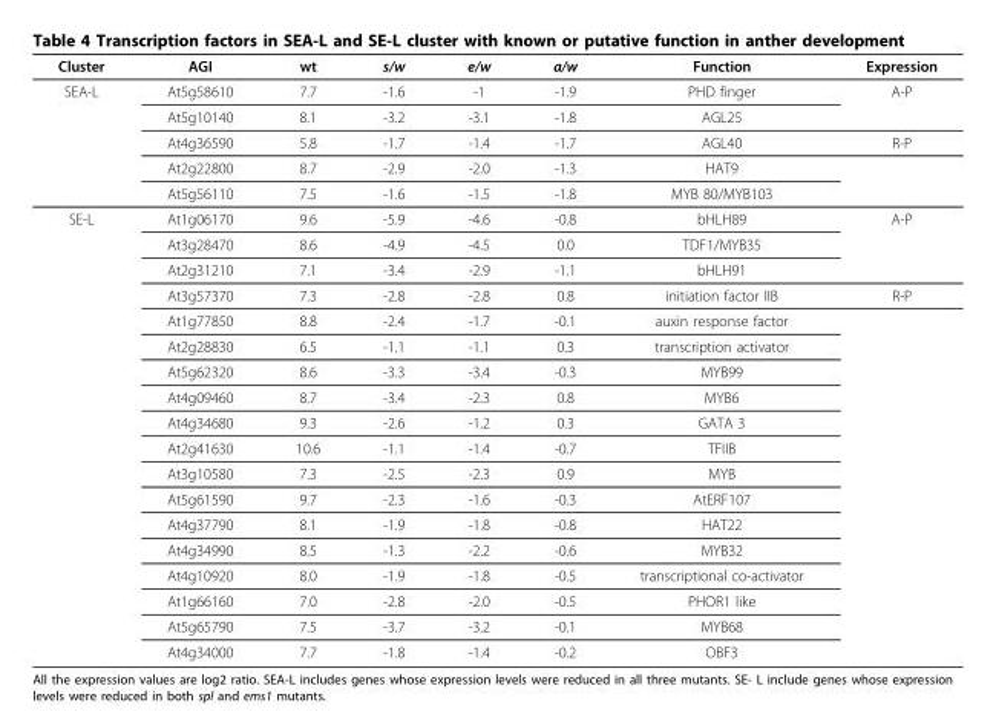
<table><thead><tr><td>Cluster</td><td>AGI</td><td>wt</td><td>s/w</td><td>e/w</td><td>a/w</td><td>Function</td><td>Expression</td></tr></thead><tbody><tr><td rowspan="5">SEA-L</td><td>At5g58610</td><td>7.7</td><td>-1.6</td><td>-1</td><td>-1.9</td><td>PHD finger</td><td>A-P</td></tr><tr><td>At5g10140</td><td>8.1</td><td>-3.2</td><td>-3.1</td><td>-1.8</td><td>AGL25</td><td></td></tr><tr><td>At4g36590</td><td>5.8</td><td>-1.7</td><td>-1.4</td><td>-1.7</td><td>AGL40</td><td>R-P</td></tr><tr><td>At2g22800</td><td>8.7</td><td>-2.9</td><td>-2.0</td><td>-1.3</td><td>HAT9</td><td></td></tr><tr><td>At5g56110</td><td>7.5</td><td>-1.6</td><td>-1.5</td><td>-1.8</td><td>MYB 80/MYB103</td><td></td></tr><tr><td rowspan="18">SE-L</td><td>At1g06170</td><td>9.6</td><td>-5.9</td><td>-4.6</td><td>-0.8</td><td>bHLH89</td><td>A-P</td></tr><tr><td>At3g28470</td><td>8.6</td><td>-4.9</td><td>-4.5</td><td>0.0</td><td>TDF1/MYB35</td><td></td></tr><tr><td>At2g31210</td><td>7.1</td><td>-3.4</td><td>-2.9</td><td>-1.1</td><td>bHLH91</td><td></td></tr><tr><td>At3g57370</td><td>7.3</td><td>-2.8</td><td>-2.8</td><td>0.8</td><td>initiation factor IIB</td><td>R-P</td></tr><tr><td>At1g77850</td><td>8.8</td><td>-2.4</td><td>-1.7</td><td>-0.1</td><td>auxin response factor</td><td></td></tr><tr><td>At2g28830</td><td>6.5</td><td>-1.1</td><td>-1.1</td><td>0.3</td><td>transcription activator</td><td></td></tr><tr><td>At5g62320</td><td>8.6</td><td>-3.3</td><td>-3.4</td><td>-0.3</td><td>MYB99</td><td></td></tr><tr><td>At4g09460</td><td>8.7</td><td>-3.4</td><td>-2.3</td><td>0.8</td><td>MYB6</td><td></td></tr><tr><td>At4g34680</td><td>9.3</td><td>-2.6</td><td>-1.2</td><td>0.3</td><td>GATA 3</td><td></td></tr><tr><td>At2g41630</td><td>10.6</td><td>-1.1</td><td>-1.4</td><td>-0.7</td><td>TFIIB</td><td></td></tr><tr><td>At3g10580</td><td>7.3</td><td>-2.5</td><td>-2.3</td><td>0.9</td><td>MYB</td><td></td></tr><tr><td>At5g61590</td><td>9.7</td><td>-2.3</td><td>-1.6</td><td>-0.3</td><td>AtERF107</td><td></td></tr><tr><td>At4g37790</td><td>8.1</td><td>-1.9</td><td>-1.8</td><td>-0.8</td><td>HAT22</td><td></td></tr><tr><td>At4g34990</td><td>8.5</td><td>-1.3</td><td>-2.2</td><td>-0.6</td><td>MYB32</td><td></td></tr><tr><td>At4g10920</td><td>8.0</td><td>-1.9</td><td>-1.8</td><td>-0.5</td><td>transcriptional co-activator</td><td></td></tr><tr><td>At1g66160</td><td>7.0</td><td>-2.8</td><td>-2.0</td><td>-0.5</td><td>PHOR1 like</td><td></td></tr><tr><td>At5g65790</td><td>7.5</td><td>-3.7</td><td>-3.2</td><td>-0.1</td><td>MYB68</td><td></td></tr><tr><td>At4g34000</td><td>7.7</td><td>-1.8</td><td>-1.4</td><td>-0.2</td><td>OBF3</td><td></td></tr></tbody></table>